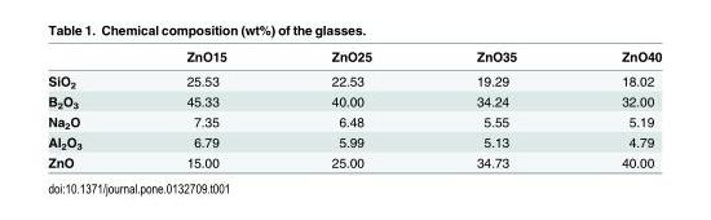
<table><thead><tr><td></td><td>ZnO15</td><td>ZnO25</td><td>ZnO35</td><td>ZnO40</td></tr></thead><tbody><tr><td>SiO<sub>2</sub></td><td>25.53</td><td>22.53</td><td>19.29</td><td>18.02</td></tr><tr><td>B<sub>2</sub>O<sub>3</sub></td><td>45.33</td><td>40.00</td><td>34.24</td><td>32.00</td></tr><tr><td>Na<sub>2</sub>O</td><td>7.35</td><td>6.48</td><td>5.55</td><td>5.19</td></tr><tr><td>Al<sub>2</sub>O<sub>3</sub></td><td>6.79</td><td>5.99</td><td>5.13</td><td>4.79</td></tr><tr><td>ZnO</td><td>15.00</td><td>25.00</td><td>34.73</td><td>40.00</td></tr></tbody></table>